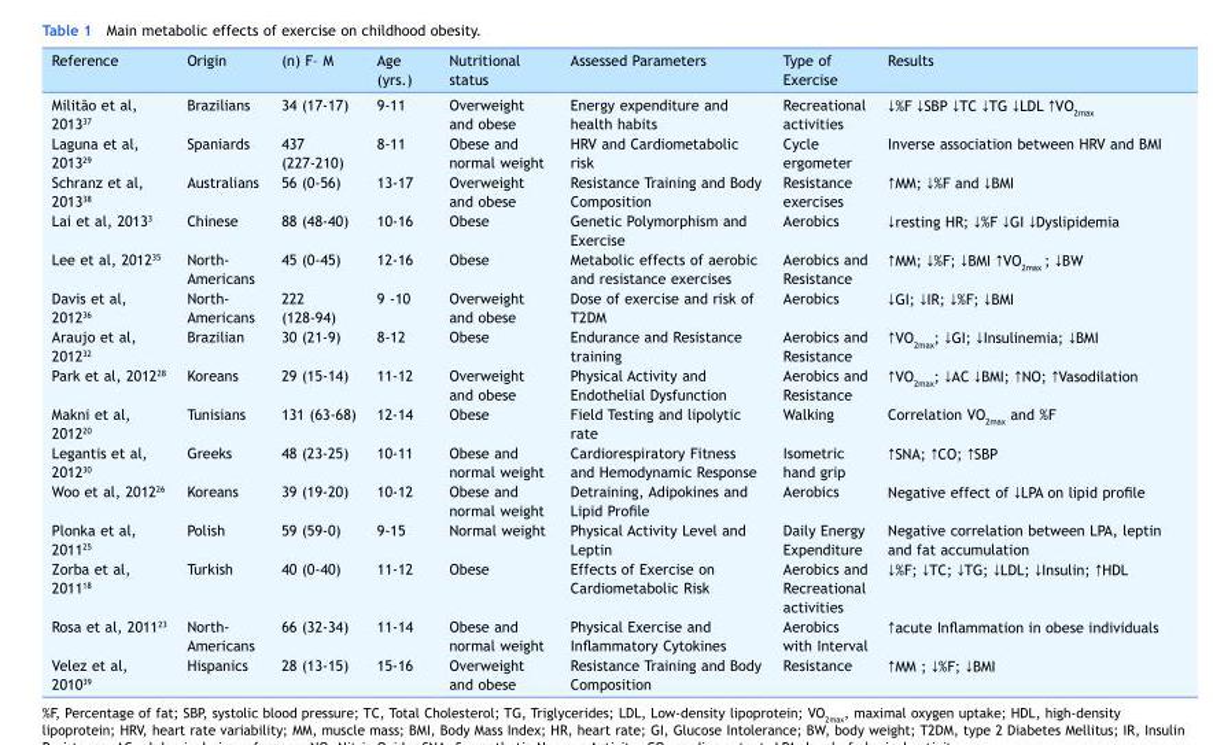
<table><thead><tr><td>Reference</td><td>Origin</td><td>(n) F– M</td><td>Age (yrs.)</td><td>Nutritional status</td><td>Assessed Parameters</td><td>Type of Exercise</td><td>Results</td></tr></thead><tbody><tr><td>Militão et al, 2013<sup>37</sup></td><td>Brazilians</td><td>34 (17-17)</td><td>9-11</td><td>Overweight and obese</td><td>Energy expenditure and health habits</td><td>Recreational activities</td><td>↓%F ↓SBP ↓TC ↓TG ↓LDL ↑VO<sub>2max</sub></td></tr><tr><td>Laguna et al, 2013<sup>29</sup></td><td>Spaniards</td><td>437 (227-210)</td><td>8-11</td><td>Obese and normal weight</td><td>HRV and Cardiometabolic risk</td><td>Cycle ergometer</td><td>Inverse association between HRV and BMI</td></tr><tr><td>Schranz et al, 2013<sup>38</sup></td><td>Australians</td><td>56 (0-56)</td><td>13-17</td><td>Overweight and obese</td><td>Resistance Training and Body Composition</td><td>Resistance exercises</td><td>↑MM; ↓%F and ↓BMI</td></tr><tr><td>Lai et al, 2013<sup>3</sup></td><td>Chinese</td><td>88 (48-40)</td><td>10-16</td><td>Obese</td><td>Genetic Polymorphism and Exercise</td><td>Aerobics</td><td>↓resting HR; ↓%F ↓GI ↓Dyslipidemia</td></tr><tr><td>Lee et al, 2012<sup>35</sup></td><td>North- Americans</td><td>45 (0-45)</td><td>12-16</td><td>Obese</td><td>Metabolic effects of aerobic and resistance exercises</td><td>Aerobics and Resistance</td><td>↑MM; ↓%F; ↓BMI ↑VO<sub>2max</sub> ; ↓BW</td></tr><tr><td>Davis et al, 2012<sup>36</sup></td><td>North- Americans</td><td>222 (128-94)</td><td>9 -10</td><td>Overweight and obese</td><td>Dose of exercise and risk of T2DM</td><td>Aerobics</td><td>↓GI; ↓IR; ↓%F; ↓BMI</td></tr><tr><td>Araujo et al, 2012<sup>32</sup></td><td>Brazilian</td><td>30 (21-9)</td><td>8-12</td><td>Obese</td><td>Endurance and Resistance training</td><td>Aerobics and Resistance</td><td>↑VO<sub>2max</sub>; ↓GI; ↓Insulinemia; ↓BMI</td></tr><tr><td>Park et al, 2012<sup>28</sup></td><td>Koreans</td><td>29 (15-14)</td><td>11-12</td><td>Overweight and obese</td><td>Physical Activity and Endothelial Dysfunction</td><td>Aerobics and Resistance</td><td>↑VO<sub>2max</sub>; ↓AC ↓BMI; ↑NO; ↑Vasodilation</td></tr><tr><td>Makni et al, 2012<sup>20</sup></td><td>Tunisians</td><td>131 (63-68)</td><td>12-14</td><td>Obese</td><td>Field Testing and lipolytic rate</td><td>Walking</td><td>Correlation VO<sub>2max</sub> and %F</td></tr><tr><td>Legantis et al, 2012<sup>30</sup></td><td>Greeks</td><td>48 (23-25)</td><td>10-11</td><td>Obese and normal weight</td><td>Cardiorespiratory Fitness and Hemodynamic Response</td><td>Isometric hand grip</td><td>↑SNA; ↑CO; ↑SBP</td></tr><tr><td>Woo et al, 2012<sup>26</sup></td><td>Koreans</td><td>39 (19-20)</td><td>10-12</td><td>Obese and normal weight</td><td>Detraining, Adipokines and Lipid Profile</td><td>Aerobics</td><td>Negative effect of ↓LPA on lipid profile</td></tr><tr><td>Plonka et al, 2011<sup>25</sup></td><td>Polish</td><td>59 (59-0)</td><td>9-15</td><td>Normal weight</td><td>Physical Activity Level and Leptin</td><td>Daily Energy Expenditure</td><td>Negative correlation between LPA, leptin and fat accumulation</td></tr><tr><td>Zorba et al, 2011<sup>18</sup></td><td>Turkish</td><td>40 (0-40)</td><td>11-12</td><td>Obese</td><td>Effects of Exercise on Cardiometabolic Risk</td><td>Aerobics and Recreational activities</td><td>↓%F; ↓TC; ↓TG; ↓LDL; ↓Insulin; ↑HDL</td></tr><tr><td>Rosa et al, 2011<sup>23</sup></td><td>North- Americans</td><td>66 (32-34)</td><td>11-14</td><td>Obese and normal weight</td><td>Physical Exercise and Inflammatory Cytokines</td><td>Aerobics with Interval</td><td>↑acute Inflammation in obese individuals</td></tr><tr><td>Velez et al, 2010<sup>39</sup></td><td>Hispanics</td><td>28 (13-15)</td><td>15-16</td><td>Overweight and obese</td><td>Resistance Training and Body Composition</td><td>Resistance</td><td>↑MM ; ↓%F; ↓BMI</td></tr></tbody></table>